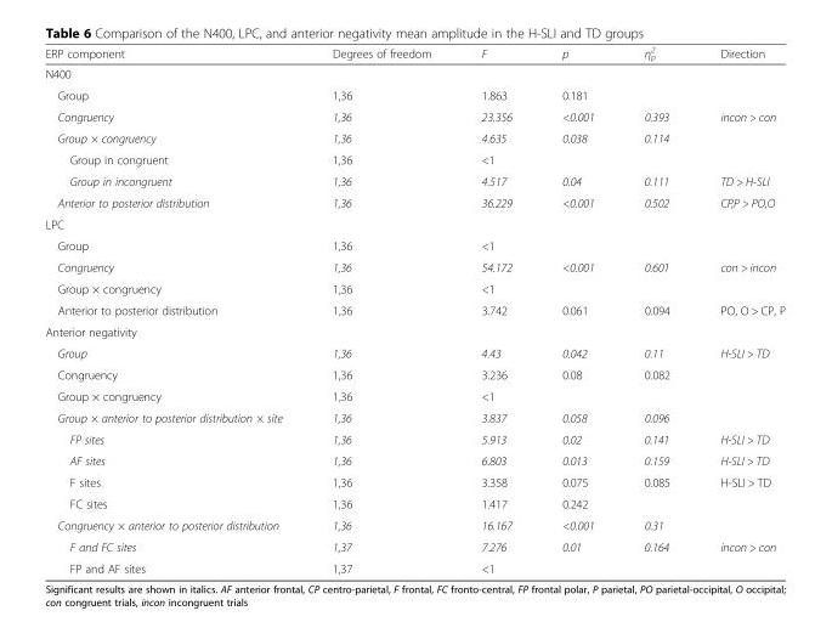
<table><thead><tr><td>ERP component</td><td>Degrees of freedom</td><td>F</td><td>p</td><td>η<sub>p</sub> <sup>2</sup></td><td>Direction</td></tr></thead><tbody><tr><td colspan="6">N400</td></tr><tr><td>Group</td><td>1,36</td><td>1.863</td><td>0.181</td><td></td><td></td></tr><tr><td>Congruency</td><td>1,36</td><td>23.356</td><td>&lt;0.001</td><td>0.393</td><td>incon &gt; con</td></tr><tr><td>Group × congruency</td><td>1,36</td><td>4.635</td><td>0.038</td><td>0.114</td><td></td></tr><tr><td>Group in congruent</td><td>1,36</td><td>&lt;1</td><td></td><td></td><td></td></tr><tr><td>Group in incongruent</td><td>1,36</td><td>4.517</td><td>0.04</td><td>0.111</td><td>TD &gt; H-SLI</td></tr><tr><td>Anterior to posterior distribution</td><td>1,36</td><td>36.229</td><td>&lt;0.001</td><td>0.502</td><td>CP,P &gt; PO,O</td></tr><tr><td colspan="6">LPC</td></tr><tr><td>Group</td><td>1,36</td><td>&lt;1</td><td></td><td></td><td></td></tr><tr><td>Congruency</td><td>1,36</td><td>54.172</td><td>&lt;0.001</td><td>0.601</td><td>con &gt; incon</td></tr><tr><td>Group × congruency</td><td>1,36</td><td>&lt;1</td><td></td><td></td><td></td></tr><tr><td>Anterior to posterior distribution</td><td>1,36</td><td>3.742</td><td>0.061</td><td>0.094</td><td>PO, O &gt; CP, P</td></tr><tr><td colspan="6">Anterior negativity</td></tr><tr><td>Group</td><td>1,36</td><td>4.43</td><td>0.042</td><td>0.11</td><td>H-SLI &gt; TD</td></tr><tr><td>Congruency</td><td>1,36</td><td>3.236</td><td>0.08</td><td>0.082</td><td></td></tr><tr><td>Group × congruency</td><td>1,36</td><td>&lt;1</td><td></td><td></td><td></td></tr><tr><td>Group × anterior to posterior distribution × site</td><td>1,36</td><td>3.837</td><td>0.058</td><td>0.096</td><td></td></tr><tr><td>FP sites</td><td>1,36</td><td>5.913</td><td>0.02</td><td>0.141</td><td>H-SLI &gt; TD</td></tr><tr><td>AF sites</td><td>1,36</td><td>6.803</td><td>0.013</td><td>0.159</td><td>H-SLI &gt; TD</td></tr><tr><td>F sites</td><td>1,36</td><td>3.358</td><td>0.075</td><td>0.085</td><td>H-SLI &gt; TD</td></tr><tr><td>FC sites</td><td>1,36</td><td>1.417</td><td>0.242</td><td></td><td></td></tr><tr><td>Congruency × anterior to posterior distribution</td><td>1,36</td><td>16.167</td><td>&lt;0.001</td><td>0.31</td><td></td></tr><tr><td>F and FC sites</td><td>1,37</td><td>7.276</td><td>0.01</td><td>0.164</td><td>incon &gt; con</td></tr><tr><td>FP and AF sites</td><td>1,37</td><td>&lt;1</td><td></td><td></td><td></td></tr></tbody></table>